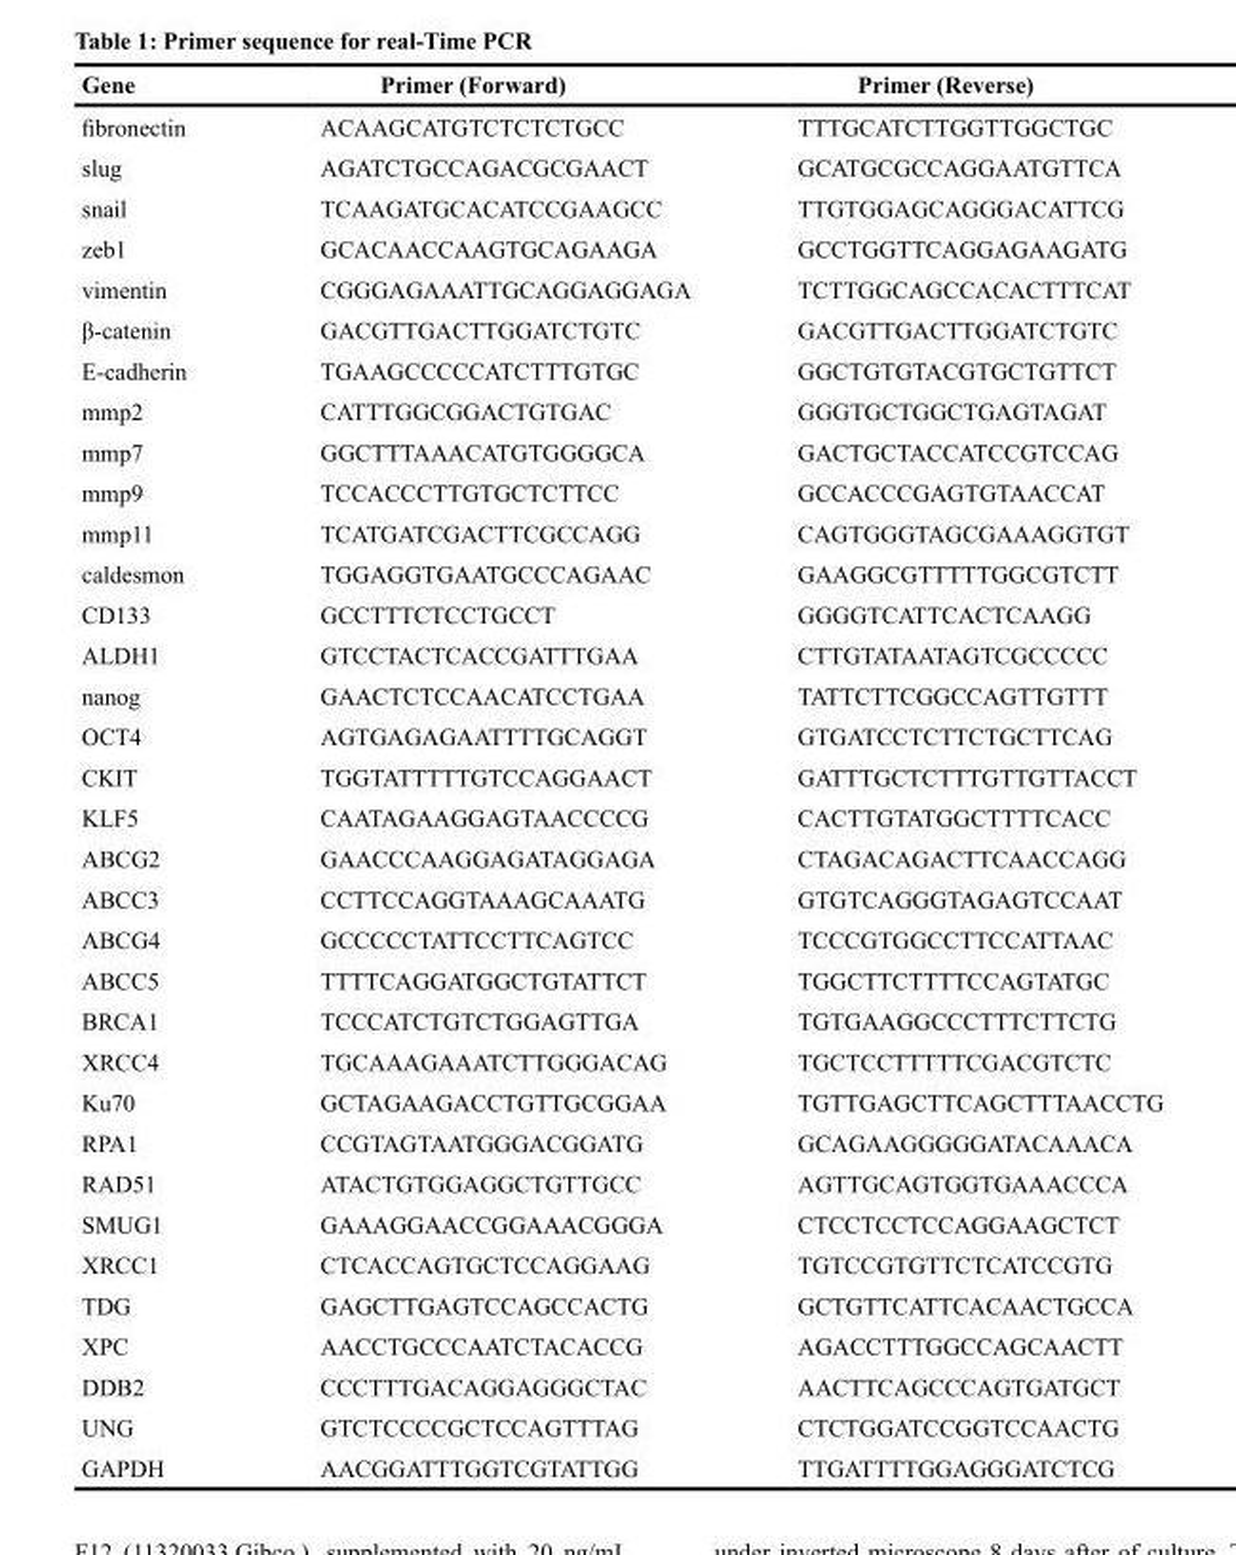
<table><thead><tr><td>Gene</td><td>Primer (Forward)</td><td>Primer (Reverse)</td></tr></thead><tbody><tr><td>fibronectin</td><td>ACAAGCATGTCTCTCTGCC</td><td>TTTGCATCTTGGTTGGCTGC</td></tr><tr><td>slug</td><td>AGATCTGCCAGACGCGAACT</td><td>GCATGCGCCAGGAATGTTCA</td></tr><tr><td>snail</td><td>TCAAGATGCACATCCGAAGCC</td><td>TTGTGGAGCAGGGACATTCG</td></tr><tr><td>zeb1</td><td>GCACAACCAAGTGCAGAAGA</td><td>GCCTGGTTCAGGAGAAGATG</td></tr><tr><td>vimentin</td><td>CGGGAGAAATTGCAGGAGGAGA</td><td>TCTTGGCAGCCACACTTTCAT</td></tr><tr><td>β-catenin</td><td>GACGTTGACTTGGATCTGTC</td><td>GACGTTGACTTGGATCTGTC</td></tr><tr><td>E-cadherin</td><td>TGAAGCCCCCATCTTTGTGC</td><td>GGCTGTGTACGTGCTGTTCT</td></tr><tr><td>mmp2</td><td>CATTTGGCGGACTGTGAC</td><td>GGGTGCTGGCTGAGTAGAT</td></tr><tr><td>mmp7</td><td>GGCTTTAAACATGTGGGGCA</td><td>GACTGCTACCATCCGTCCAG</td></tr><tr><td>mmp9</td><td>TCCACCCTTGTGCTCTTCC</td><td>GCCACCCGAGTGTAACCAT</td></tr><tr><td>mmp11</td><td>TCATGATCGACTTCGCCAGG</td><td>CAGTGGGTAGCGAAAGGTGT</td></tr><tr><td>caldesmon</td><td>TGGAGGTGAATGCCCAGAAC</td><td>GAAGGCGTTTTTGGCGTCTT</td></tr><tr><td>CD133</td><td>GCCTTTCTCCTGCCT</td><td>GGGGTCATTCACTCAAGG</td></tr><tr><td>ALDH1</td><td>GTCCTACTCACCGATTTGAA</td><td>CTTGTATAATAGTCGCCCCC</td></tr><tr><td>nanog</td><td>GAACTCTCCAACATCCTGAA</td><td>TATTCTTCGGCCAGTTGTTT</td></tr><tr><td>OCT4</td><td>AGTGAGAGAATTTTGCAGGT</td><td>GTGATCCTCTTCTGCTTCAG</td></tr><tr><td>CKIT</td><td>TGGTATTTTTGTCCAGGAACT</td><td>GATTTGCTCTTTGTTGTTACCT</td></tr><tr><td>KLF5</td><td>CAATAGAAGGAGTAACCCCG</td><td>CACTTGTATGGCTTTTCACC</td></tr><tr><td>ABCG2</td><td>GAACCCAAGGAGATAGGAGA</td><td>CTAGACAGACTTCAACCAGG</td></tr><tr><td>ABCC3</td><td>CCTTCCAGGTAAAGCAAATG</td><td>GTGTCAGGGTAGAGTCCAAT</td></tr><tr><td>ABCG4</td><td>GCCCCCTATTCCTTCAGTCC</td><td>TCCCGTGGCCTTCCATTAAC</td></tr><tr><td>ABCC5</td><td>TTTTCAGGATGGCTGTATTCT</td><td>TGGCTTCTTTTCCAGTATGC</td></tr><tr><td>BRCA1</td><td>TCCCATCTGTCTGGAGTTGA</td><td>TGTGAAGGCCCTTTCTTCTG</td></tr><tr><td>XRCC4</td><td>TGCAAAGAAATCTTGGGACAG</td><td>TGCTCCTTTTTCGACGTCTC</td></tr><tr><td>Ku70</td><td>GCTAGAAGACCTGTTGCGGAA</td><td>TGTTGAGCTTCAGCTTTAACCTG</td></tr><tr><td>RPA1</td><td>CCGTAGTAATGGGACGGATG</td><td>GCAGAAGGGGGATACAAACA</td></tr><tr><td>RAD51</td><td>ATACTGTGGAGGCTGTTGCC</td><td>AGTTGCAGTGGTGAAACCCA</td></tr><tr><td>SMUG1</td><td>GAAAGGAACCGGAAACGGGA</td><td>CTCCTCCTCCAGGAAGCTCT</td></tr><tr><td>XRCC1</td><td>CTCACCAGTGCTCCAGGAAG</td><td>TGTCCGTGTTCTCATCCGTG</td></tr><tr><td>TDG</td><td>GAGCTTGAGTCCAGCCACTG</td><td>GCTGTTCATTCACAACTGCCA</td></tr><tr><td>XPC</td><td>AACCTGCCCAATCTACACCG</td><td>AGACCTTTGGCCAGCAACTT</td></tr><tr><td>DDB2</td><td>CCCTTTGACAGGAGGGCTAC</td><td>AACTTCAGCCCAGTGATGCT</td></tr><tr><td>UNG</td><td>GTCTCCCCGCTCCAGTTTAG</td><td>CTCTGGATCCGGTCCAACTG</td></tr><tr><td>GAPDH</td><td>AACGGATTTGGTCGTATTGG</td><td>TTGATTTTGGAGGGATCTCG</td></tr></tbody></table>